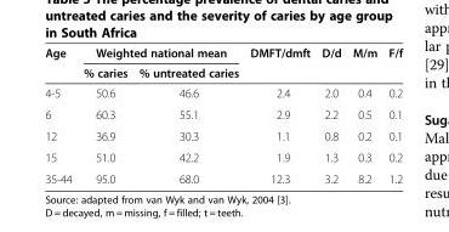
<table><thead><tr><td rowspan="2">Age</td><td colspan="2">Weighted national mean</td><td rowspan="2">DMFT/dmft</td><td rowspan="2">D/d</td><td rowspan="2">M/m</td><td rowspan="2">F/f</td></tr><tr><td>% caries</td><td>% untreated caries</td></tr></thead><tbody><tr><td>4-5</td><td>50.6</td><td>46.6</td><td>2.4</td><td>2.0</td><td>0.4</td><td>0.2</td></tr><tr><td>6</td><td>60.3</td><td>55.1</td><td>2.9</td><td>2.2</td><td>0.5</td><td>0.1</td></tr><tr><td>12</td><td>36.9</td><td>30.3</td><td>1.1</td><td>0.8</td><td>0.2</td><td>0.1</td></tr><tr><td>15</td><td>51.0</td><td>42.2</td><td>1.9</td><td>1.3</td><td>0.3</td><td>0.2</td></tr><tr><td>35-44</td><td>95.0</td><td>68.0</td><td>12.3</td><td>3.2</td><td>8.2</td><td>1.2</td></tr></tbody></table>